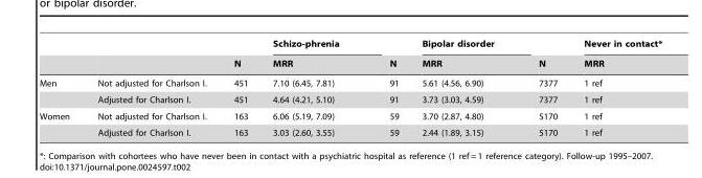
<table><thead><tr><td rowspan="2"></td><td rowspan="2"></td><td rowspan="2">N</td><td rowspan="2">Schizo-phrenia MRR</td><td rowspan="2">N</td><td rowspan="2">Bipolar disorder MRR</td><td rowspan="2">N</td><td rowspan="2">Never in contact* MRR</td></tr><tr></tr></thead><tbody><tr><td rowspan="2">Men</td><td>Not adjusted for Charlson I.</td><td>451</td><td>7.10 (6.45, 7.81)</td><td>91</td><td>5.61 (4.56, 6.90)</td><td>7377</td><td>1 ref</td></tr><tr><td>Adjusted for Charlson I.</td><td>451</td><td>4.64 (4.21, 5.10)</td><td>91</td><td>3.73 (3.03, 4.59)</td><td>7377</td><td>1 ref</td></tr><tr><td rowspan="2">Women</td><td>Not adjusted for Charlson I.</td><td>163</td><td>6.06 (5.19, 7.09)</td><td>59</td><td>3.70 (2.87, 4.80)</td><td>5170</td><td>1 ref</td></tr><tr><td>Adjusted for Charlson I.</td><td>163</td><td>3.03 (2.60, 3.55)</td><td>59</td><td>2.44 (1.89, 3.15)</td><td>5170</td><td>1 ref</td></tr></tbody></table>